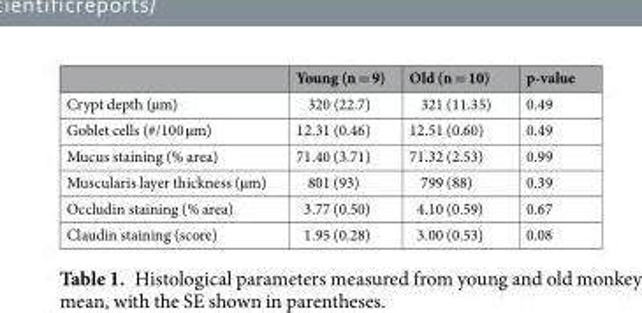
<table><thead><tr><td></td><td>Young (n = 9)</td><td>Old (n = 10)</td><td>p-value</td></tr></thead><tbody><tr><td>Crypt depth (µm)</td><td>320 (22.7)</td><td>321 (11.35)</td><td>0.49</td></tr><tr><td>Goblet cells (#/100 µm)</td><td>12.31 (0.46)</td><td>12.51 (0.60)</td><td>0.49</td></tr><tr><td>Mucus staining (% area)</td><td>71.40 (3.71)</td><td>71.32 (2.53)</td><td>0.99</td></tr><tr><td>Muscularis layer thickness (µm)</td><td>801 (93)</td><td>799 (88)</td><td>0.39</td></tr><tr><td>Occludin staining (% area)</td><td>3.77 (0.50)</td><td>4.10 (0.59)</td><td>0.67</td></tr><tr><td>Claudin staining (score)</td><td>1.95 (0.28)</td><td>3.00 (0.53)</td><td>0.08</td></tr></tbody></table>